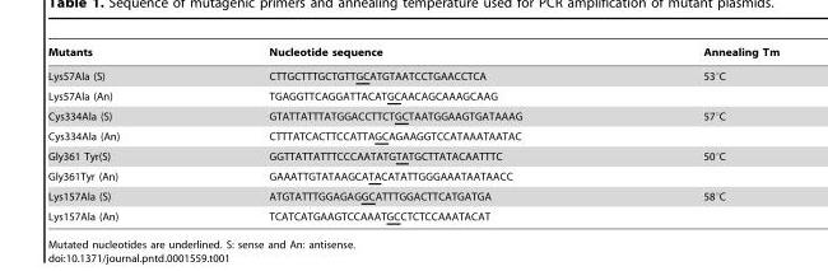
<table><thead><tr><td>Mutants</td><td>Nucleotide sequence</td><td>Annealing Tm</td></tr></thead><tbody><tr><td>Lys57Ala (S)</td><td>CTTGCTTTGCTGTTGCATGTAATCCTGAACCTCA</td><td>53°C</td></tr><tr><td>Lys57Ala (An)</td><td>TGAGGTTCAGGATTACATGCAACAGCAAAGCAAG</td><td></td></tr><tr><td>Cys334Ala (S)</td><td>GTATTATTTATGGACCTTCTGCTAATGGAAGTGATAAAG</td><td>57°C</td></tr><tr><td>Cys334Ala (An)</td><td>CTTTATCACTTCCATTAGCAGAAGGTCCATAAATAATAC</td><td></td></tr><tr><td>Gly361 Tyr(S)</td><td>GGTTATTATTTCCCAATATGTATGCTTATACAATTTC</td><td>50°C</td></tr><tr><td>Gly361Tyr (An)</td><td>GAAATTGTATAAGCATACATATTGGGAAATAATAACC</td><td></td></tr><tr><td>Lys157Ala (S)</td><td>ATGTATTTGGAGAGGCATTTGGACTTCATGATGA</td><td>58°C</td></tr><tr><td>Lys157Ala (An)</td><td>TCATCATGAAGTCCAAATGCCTCTCCAAATACAT</td><td></td></tr></tbody></table>